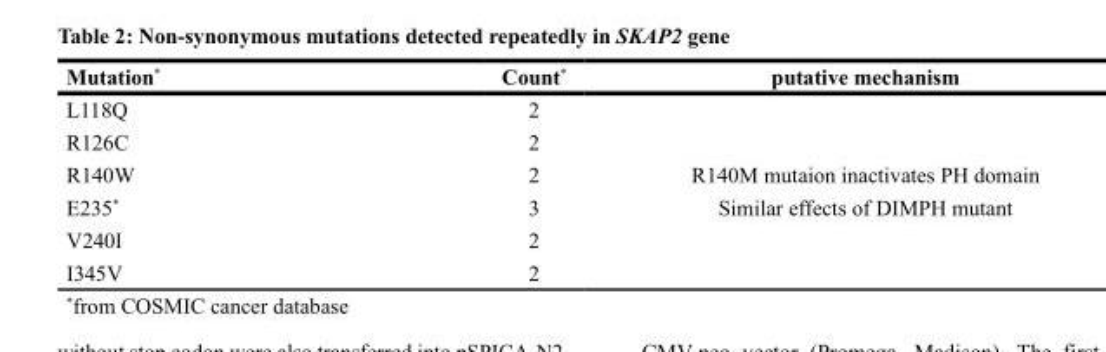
<table><thead><tr><td>Mutation*</td><td>Count*</td><td>putative mechanism</td></tr></thead><tbody><tr><td>L118Q</td><td>2</td><td></td></tr><tr><td>R126C</td><td>2</td><td></td></tr><tr><td>R140W</td><td>2</td><td>R140M mutaion inactivates PH domain</td></tr><tr><td>E235*</td><td>3</td><td>Similar effects of DIMPH mutant</td></tr><tr><td>V240I</td><td>2</td><td></td></tr><tr><td>I345V</td><td>2</td><td></td></tr></tbody></table>